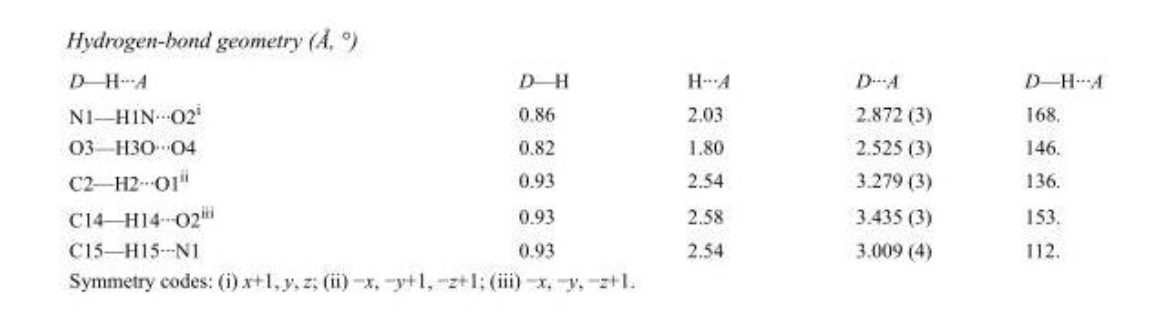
<table><tbody><tr><td>D—H···A</td><td>D—H</td><td>H···A</td><td>D···A</td><td>D—H···A</td></tr><tr><td>N1—H1N···O2<sup>i</sup></td><td>0.86</td><td>2.03</td><td>2.872 (3)</td><td>168.</td></tr><tr><td>O3—H3O···O4</td><td>0.82</td><td>1.80</td><td>2.525 (3)</td><td>146.</td></tr><tr><td>C2—H2···O1<sup>ii</sup></td><td>0.93</td><td>2.54</td><td>3.279 (3)</td><td>136.</td></tr><tr><td>C14—H14···O2<sup>iii</sup></td><td>0.93</td><td>2.58</td><td>3.435 (3)</td><td>153.</td></tr><tr><td>C15—H15···N1</td><td>0.93</td><td>2.54</td><td>3.009 (4)</td><td>112.</td></tr></tbody></table>